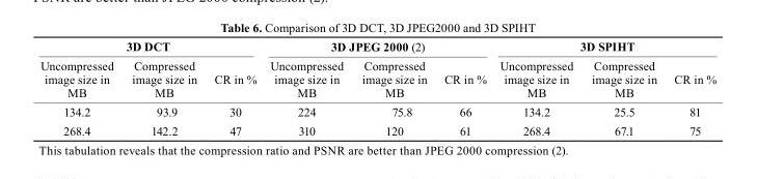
<table><thead><tr><td colspan="3">3D Dct</td><td colspan="3">3D JPEG 2000 (2)</td><td colspan="3">3D sPIHt</td></tr><tr><td>Uncompressed image size in MB</td><td>Compressed image size in MB</td><td>CR in %</td><td>Uncompressed image size in MB</td><td>Compressed image size in MB</td><td>CR in %</td><td>Uncompressed image size in MB</td><td>Compressed image size in MB</td><td>CR in %</td></tr></thead><tbody><tr><td>134.2</td><td>93.9</td><td>30</td><td>224</td><td>75.8</td><td>66</td><td>134.2</td><td>25.5</td><td>81</td></tr><tr><td>268.4</td><td>142.2</td><td>47</td><td>310</td><td>120</td><td>61</td><td>268.4</td><td>67.1</td><td>75</td></tr></tbody></table>